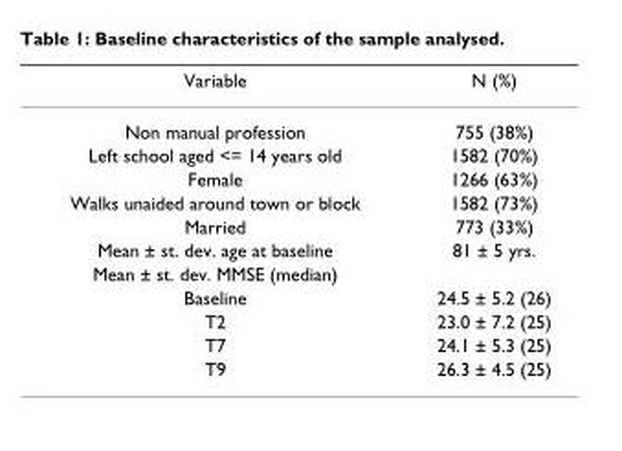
<table><thead><tr><td>Variable</td><td>N (%)</td></tr></thead><tbody><tr><td>Non manual profession</td><td>755 (38%)</td></tr><tr><td>Left school aged &lt;= 14 years old</td><td>1582 (70%)</td></tr><tr><td>Female</td><td>1266 (63%)</td></tr><tr><td>Walks unaided around town or block</td><td>1582 (73%)</td></tr><tr><td>Married</td><td>773 (33%)</td></tr><tr><td>Mean ± st. dev. age at baseline</td><td>81 ± 5 yrs.</td></tr><tr><td colspan="2">Mean ± st. dev. MMSE (median)</td></tr><tr><td>Baseline</td><td>24.5 ± 5.2 (26)</td></tr><tr><td>T2</td><td>23.0 ± 7.2 (25)</td></tr><tr><td>T7</td><td>24.1 ± 5.3 (25)</td></tr><tr><td>T9</td><td>26.3 ± 4.5 (25)</td></tr></tbody></table>